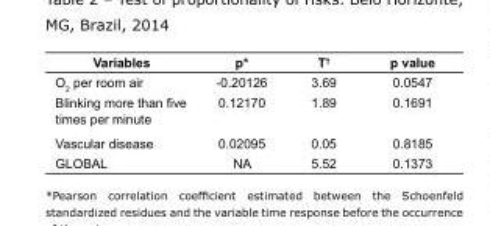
<table><tbody><tr><td>Variables</td><td>p*</td><td>T<sup>†</sup></td><td>p value</td></tr><tr><td>O<sub>2</sub> per room air</td><td>-0.20126</td><td>3.69</td><td>0.0547</td></tr><tr><td>Blinking more than five times per minute</td><td>0.12170</td><td>1.89</td><td>0.1691</td></tr><tr><td>Vascular disease</td><td>0.02095</td><td>0.05</td><td>0.8185</td></tr><tr><td>GLOBAL</td><td>NA</td><td>5.52</td><td>0.1373</td></tr></tbody></table>